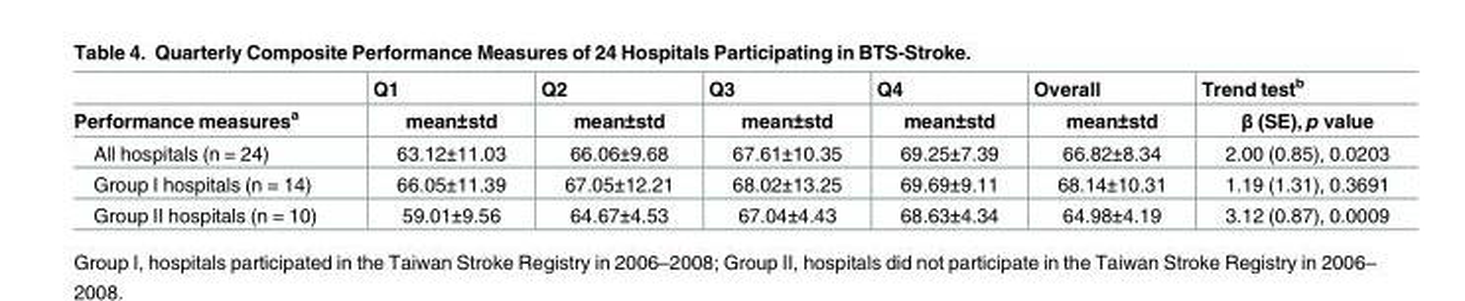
<table><thead><tr><td rowspan="2">Performance measures<sup>a</sup></td><td rowspan="2">Q1 mean±std</td><td rowspan="2">Q2 mean±std</td><td rowspan="2">Q3 mean±std</td><td rowspan="2">Q4 mean±std</td><td rowspan="2">Overall mean±std</td><td rowspan="2">Trend test<sup>b</sup> β (SE), p value</td></tr><tr></tr></thead><tbody><tr><td>All hospitals (n = 24)</td><td>63.12±11.03</td><td>66.06±9.68</td><td>67.61±10.35</td><td>69.25±7.39</td><td>66.82±8.34</td><td>2.00 (0.85), 0.0203</td></tr><tr><td>Group I hospitals (n = 14)</td><td>66.05±11.39</td><td>67.05±12.21</td><td>68.02±13.25</td><td>69.69±9.11</td><td>68.14±10.31</td><td>1.19 (1.31), 0.3691</td></tr><tr><td>Group II hospitals (n = 10)</td><td>59.01±9.56</td><td>64.67±4.53</td><td>67.04±4.43</td><td>68.63±4.34</td><td>64.98±4.19</td><td>3.12 (0.87), 0.0009</td></tr></tbody></table>